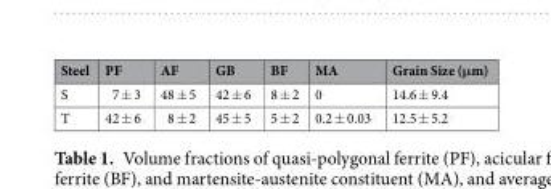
<table><thead><tr><td>Steel</td><td>PF</td><td>AF</td><td>GB</td><td>BF</td><td>MA</td><td>Grain Size (μm)</td></tr></thead><tbody><tr><td>S</td><td>7 ± 3</td><td>48 ± 5</td><td>42 ± 6</td><td>8 ± 2</td><td>0</td><td>14.6 ± 9.4</td></tr><tr><td>T</td><td>42 ± 6</td><td>8 ± 2</td><td>45 ± 5</td><td>5 ± 2</td><td>0.2 ± 0.03</td><td>12.5 ± 5.2</td></tr></tbody></table>